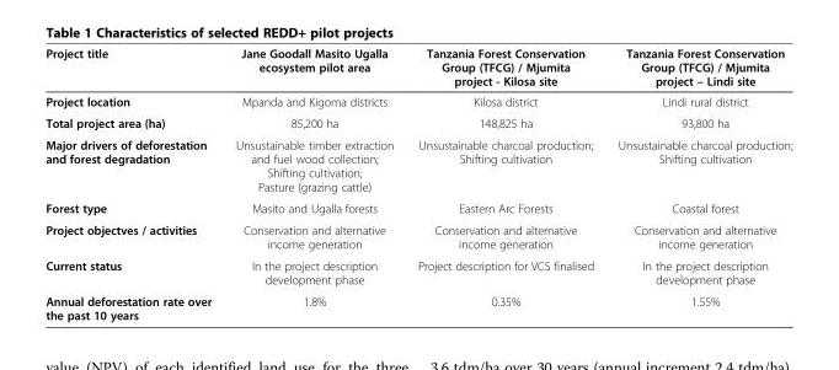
<table><thead><tr><td>Project title</td><td>Jane Goodall Masito Ugalla ecosystem pilot area</td><td>Tanzania Forest Conservation Group (TFCG) / Mjumita project - Kilosa site</td><td>Tanzania Forest Conservation Group (TFCG) / Mjumita project – Lindi site</td></tr></thead><tbody><tr><td>Project location</td><td>Mpanda and Kigoma districts</td><td>Kilosa district</td><td>Lindi rural district</td></tr><tr><td>Total project area (ha)</td><td>85,200 ha</td><td>148,825 ha</td><td>93,800 ha</td></tr><tr><td>Major drivers of deforestation and forest degradation</td><td>Unsustainable timber extraction and fuel wood collection; Shifting cultivation; Pasture (grazing cattle)</td><td>Unsustainable charcoal production; Shifting cultivation</td><td>Unsustainable charcoal production; Shifting cultivation</td></tr><tr><td>Forest type</td><td>Masito and Ugalla forests</td><td>Eastern Arc Forests</td><td>Coastal forest</td></tr><tr><td>Project objectves / activities</td><td>Conservation and alternative income generation</td><td>Conservation and alternative income generation</td><td>Conservation and alternative income generation</td></tr><tr><td>Current status</td><td>In the project description development phase</td><td>Project description for VCS finalised</td><td>In the project description development phase</td></tr><tr><td>Annual deforestation rate over the past 10 years</td><td>1.8%</td><td>0.35%</td><td>1.55%</td></tr></tbody></table>